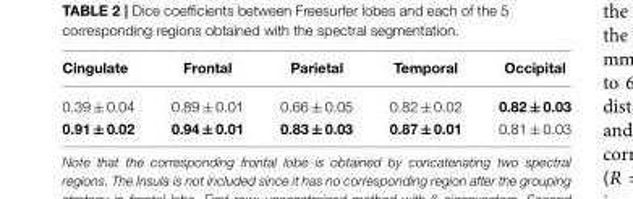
<table><thead><tr><td>Cingulate</td><td>Frontal</td><td>Parietal</td><td>Temporal</td><td>Occipital</td></tr></thead><tbody><tr><td>0.39 ± 0.04</td><td>0.89 ± 0.01</td><td>0.66 ± 0.05</td><td>0.82 ± 0.02</td><td>0.82 ± 0.03</td></tr><tr><td>0.91 ± 0.02</td><td>0.94 ± 0.01</td><td>0.83 ± 0.03</td><td>0.87 ± 0.01</td><td>0.81 ± 0.03</td></tr></tbody></table>